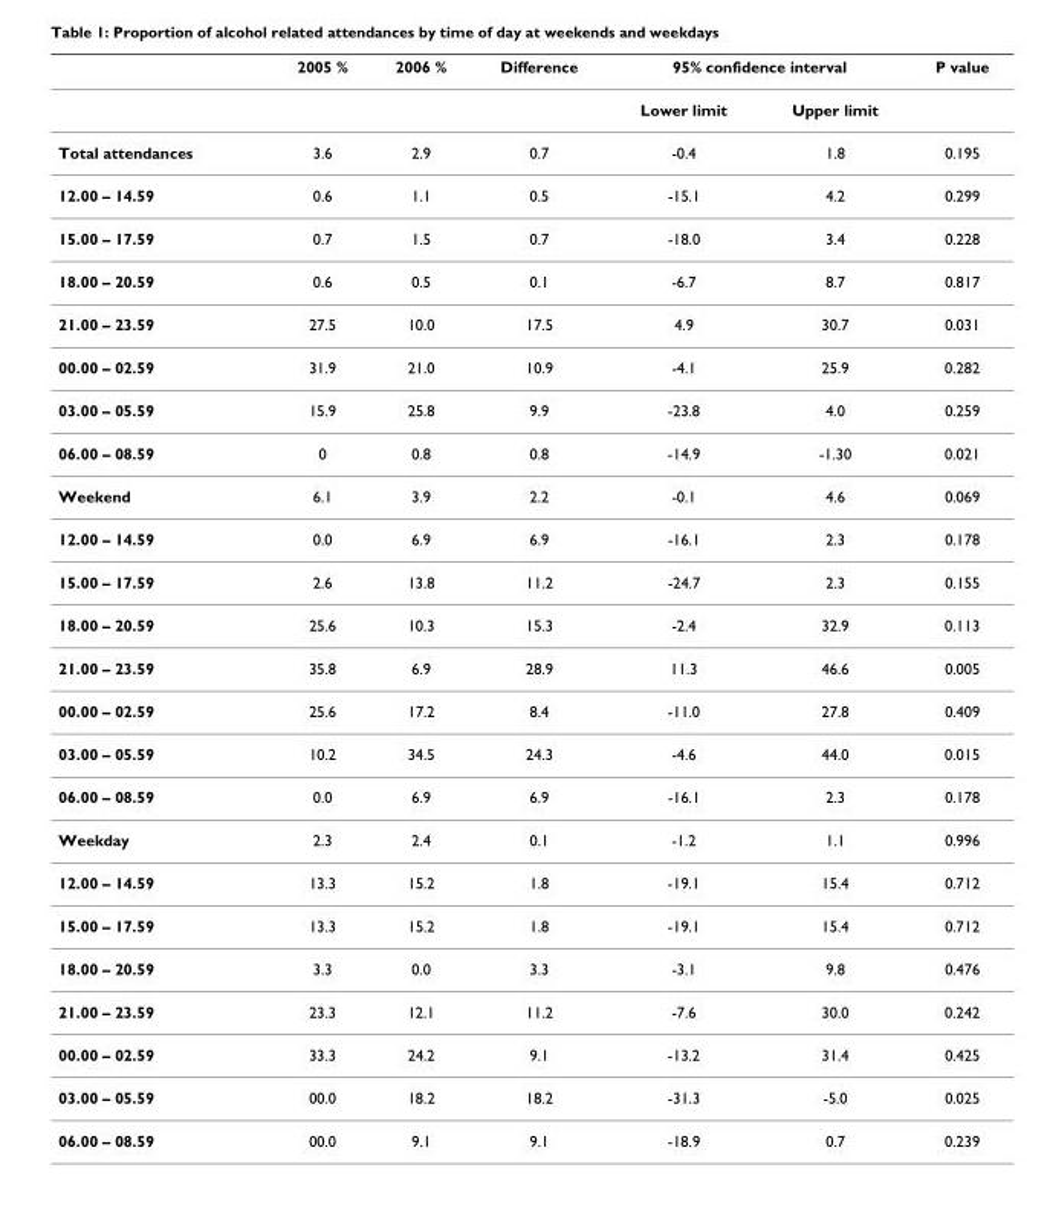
<table><thead><tr><td rowspan="2"></td><td rowspan="2">2005 %</td><td rowspan="2">2006 %</td><td rowspan="2">Difference</td><td colspan="2">95% confidence interval</td><td rowspan="2">P value</td></tr><tr><td>Lower limit</td><td>Upper limit</td></tr></thead><tbody><tr><td>Total attendances</td><td>3.6</td><td>2.9</td><td>0.7</td><td>-0.4</td><td>1.8</td><td>0.195</td></tr><tr><td>12.00 – 14.59</td><td>0.6</td><td>1.1</td><td>0.5</td><td>-15.1</td><td>4.2</td><td>0.299</td></tr><tr><td>15.00 – 17.59</td><td>0.7</td><td>1.5</td><td>0.7</td><td>-18.0</td><td>3.4</td><td>0.228</td></tr><tr><td>18.00 – 20.59</td><td>0.6</td><td>0.5</td><td>0.1</td><td>-6.7</td><td>8.7</td><td>0.817</td></tr><tr><td>21.00 – 23.59</td><td>27.5</td><td>10.0</td><td>17.5</td><td>4.9</td><td>30.7</td><td>0.031</td></tr><tr><td>00.00 – 02.59</td><td>31.9</td><td>21.0</td><td>10.9</td><td>-4.1</td><td>25.9</td><td>0.282</td></tr><tr><td>03.00 – 05.59</td><td>15.9</td><td>25.8</td><td>9.9</td><td>-23.8</td><td>4.0</td><td>0.259</td></tr><tr><td>06.00 – 08.59</td><td>0</td><td>0.8</td><td>0.8</td><td>-14.9</td><td>-1.30</td><td>0.021</td></tr><tr><td>Weekend</td><td>6.1</td><td>3.9</td><td>2.2</td><td>-0.1</td><td>4.6</td><td>0.069</td></tr><tr><td>12.00 – 14.59</td><td>0.0</td><td>6.9</td><td>6.9</td><td>-16.1</td><td>2.3</td><td>0.178</td></tr><tr><td>15.00 – 17.59</td><td>2.6</td><td>13.8</td><td>11.2</td><td>-24.7</td><td>2.3</td><td>0.155</td></tr><tr><td>18.00 – 20.59</td><td>25.6</td><td>10.3</td><td>15.3</td><td>-2.4</td><td>32.9</td><td>0.113</td></tr><tr><td>21.00 – 23.59</td><td>35.8</td><td>6.9</td><td>28.9</td><td>11.3</td><td>46.6</td><td>0.005</td></tr><tr><td>00.00 – 02.59</td><td>25.6</td><td>17.2</td><td>8.4</td><td>-11.0</td><td>27.8</td><td>0.409</td></tr><tr><td>03.00 – 05.59</td><td>10.2</td><td>34.5</td><td>24.3</td><td>-4.6</td><td>44.0</td><td>0.015</td></tr><tr><td>06.00 – 08.59</td><td>0.0</td><td>6.9</td><td>6.9</td><td>-16.1</td><td>2.3</td><td>0.178</td></tr><tr><td>Weekday</td><td>2.3</td><td>2.4</td><td>0.1</td><td>-1.2</td><td>1.1</td><td>0.996</td></tr><tr><td>12.00 – 14.59</td><td>13.3</td><td>15.2</td><td>1.8</td><td>-19.1</td><td>15.4</td><td>0.712</td></tr><tr><td>15.00 – 17.59</td><td>13.3</td><td>15.2</td><td>1.8</td><td>-19.1</td><td>15.4</td><td>0.712</td></tr><tr><td>18.00 – 20.59</td><td>3.3</td><td>0.0</td><td>3.3</td><td>-3.1</td><td>9.8</td><td>0.476</td></tr><tr><td>21.00 – 23.59</td><td>23.3</td><td>12.1</td><td>11.2</td><td>-7.6</td><td>30.0</td><td>0.242</td></tr><tr><td>00.00 – 02.59</td><td>33.3</td><td>24.2</td><td>9.1</td><td>-13.2</td><td>31.4</td><td>0.425</td></tr><tr><td>03.00 – 05.59</td><td>00.0</td><td>18.2</td><td>18.2</td><td>-31.3</td><td>-5.0</td><td>0.025</td></tr><tr><td>06.00 – 08.59</td><td>00.0</td><td>9.1</td><td>9.1</td><td>-18.9</td><td>0.7</td><td>0.239</td></tr></tbody></table>